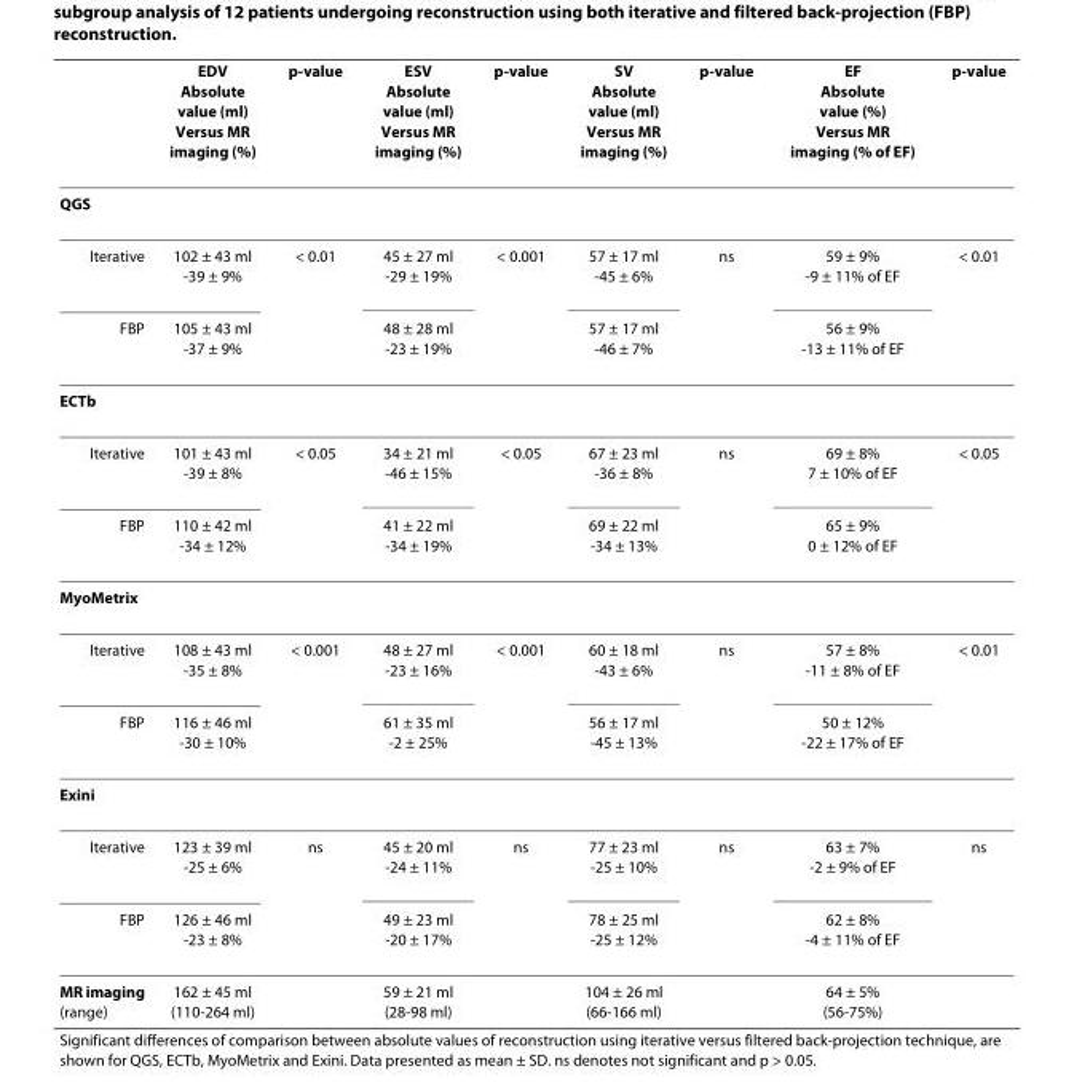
<table><thead><tr><td></td><td>EDV Absolute value (ml) Versus MR imaging (%)</td><td>p-value</td><td>ESV Absolute value (ml) Versus MR imaging (%)</td><td>p-value</td><td>SV Absolute value (ml) Versus MR imaging (%)</td><td>p-value</td><td>EF Absolute value (%) Versus MR imaging (% of EF)</td><td>p-value</td></tr></thead><tbody><tr><td colspan="9">QGS</td></tr><tr><td>Iterative</td><td>102 ± 43 ml -39 ± 9%</td><td>&lt; 0.01</td><td>45 ± 27 ml -29 ± 19%</td><td>&lt; 0.001</td><td>57 ± 17 ml -45 ± 6%</td><td>ns</td><td>59 ± 9% -9 ± 11% of EF</td><td>&lt; 0.01</td></tr><tr><td>FBP</td><td>105 ± 43 ml -37 ± 9%</td><td></td><td>48 ± 28 ml -23 ± 19%</td><td></td><td>57 ± 17 ml -46 ± 7%</td><td></td><td>56 ± 9% -13 ± 11% of EF</td><td></td></tr><tr><td colspan="9">ECTb</td></tr><tr><td>Iterative</td><td>101 ± 43 ml -39 ± 8%</td><td>&lt; 0.05</td><td>34 ± 21 ml -46 ± 15%</td><td>&lt; 0.05</td><td>67 ± 23 ml -36 ± 8%</td><td>ns</td><td>69 ± 8% 7 ± 10% of EF</td><td>&lt; 0.05</td></tr><tr><td>FBP</td><td>110 ± 42 ml -34 ± 12%</td><td></td><td>41 ± 22 ml -34 ± 19%</td><td></td><td>69 ± 22 ml -34 ± 13%</td><td></td><td>65 ± 9% 0 ± 12% of EF</td><td></td></tr><tr><td colspan="9">MyoMetrix</td></tr><tr><td>Iterative</td><td>108 ± 43 ml -35 ± 8%</td><td>&lt; 0.001</td><td>48 ± 27 ml -23 ± 16%</td><td>&lt; 0.001</td><td>60 ± 18 ml -43 ± 6%</td><td>ns</td><td>57 ± 8% -11 ± 8% of EF</td><td>&lt; 0.01</td></tr><tr><td>FBP</td><td>116 ± 46 ml -30 ± 10%</td><td></td><td>61 ± 35 ml -2 ± 25%</td><td></td><td>56 ± 17 ml -45 ± 13%</td><td></td><td>50 ± 12% -22 ± 17% of EF</td><td></td></tr><tr><td colspan="9">Exini</td></tr><tr><td>Iterative</td><td>123 ± 39 ml -25 ± 6%</td><td>ns</td><td>45 ± 20 ml -24 ± 11%</td><td>ns</td><td>77 ± 23 ml -25 ± 10%</td><td>ns</td><td>63 ± 7% -2 ± 9% of EF</td><td>ns</td></tr><tr><td>FBP</td><td>126 ± 46 ml -23 ± 8%</td><td></td><td>49 ± 23 ml -20 ± 17%</td><td></td><td>78 ± 25 ml -25 ± 12%</td><td></td><td>62 ± 8% -4 ± 11% of EF</td><td></td></tr><tr><td>MR imaging (range)</td><td>162 ± 45 ml (110-264 ml)</td><td></td><td>59 ± 21 ml (28-98 ml)</td><td></td><td>104 ± 26 ml (66-166 ml)</td><td></td><td>64 ± 5% (56-75%)</td><td></td></tr></tbody></table>